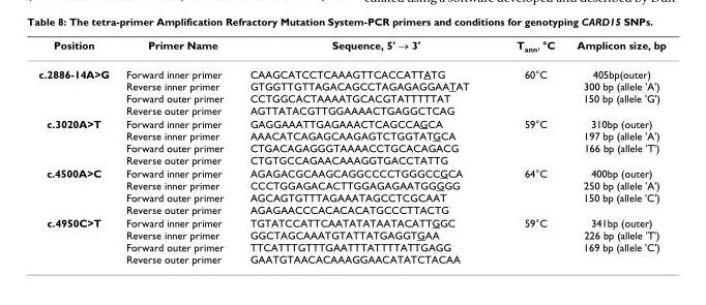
<table><thead><tr><td>Position</td><td>Primer Name</td><td>Sequence, 5&#x27; → 3&#x27;</td><td>T<sub>ann</sub>, °C</td><td>Amplicon size, bp</td></tr></thead><tbody><tr><td>c.2886-14A&gt;G</td><td>Forward inner primer Reverse inner primer Forward outer primer Reverse outer primer</td><td>CAAGCATCCTCAAAGTTCACCATTATG GTGGTTGTTAGACAGCCTAGAGAGGAATAT CCTGGCACTAAAATGCACGTATTTTTAT AGTTATACGTTGGAAAACTGAGGCTCAG</td><td>60°C</td><td>405bp(outer) 300 bp (allele &#x27;A&#x27;) 150 bp (allele &#x27;G&#x27;)</td></tr><tr><td>c.3020A&gt;T</td><td>Forward inner primer Reverse inner primer Forward outer primer Reverse outer primer</td><td>GAGGAAATTGAGAAACTCAGCCAGCA AAACATCAGAGCAAGAGTCTGGTATGCA CTGACAGAGGGTAAAACCTGCACAGACG CTGTGCCAGAACAAAGGTGACCTATTG</td><td>59°C</td><td>310bp (outer) 197 bp (allele &#x27;A&#x27;) 166 bp (allele &#x27;T&#x27;)</td></tr><tr><td>c.4500A&gt;C</td><td>Forward inner primer Reverse inner primer Forward outer primer Reverse outer primer</td><td>AGAGACGCAAGCAGGCCCCTGGGCCGCA CCCTGGAGACACTTGGAGAGAATGGGGG AGCAGTGTTTAGAAATAGCCTCGCAAT AGAGAACCCACACACATGCCCTTACTG</td><td>64°C</td><td>400bp (outer) 250 bp (allele &#x27;A&#x27;) 150 bp (allele &#x27;C&#x27;)</td></tr><tr><td>c.4950C&gt;T</td><td>Forward inner primer Reverse inner primer Forward outer primer Reverse outer primer</td><td>TGTATCCATTCAATATATAATACATTGGC GGCTAGCAAATGTATTATGAGGTGAA TTCATTTGTTTGAATTTATTTTATTGAGG GAATGTAACACAAAGGAACATATCTACAA</td><td>59°C</td><td>341bp (outer) 226 bp (allele &#x27;T&#x27;) 169 bp (allele &#x27;C&#x27;)</td></tr></tbody></table>